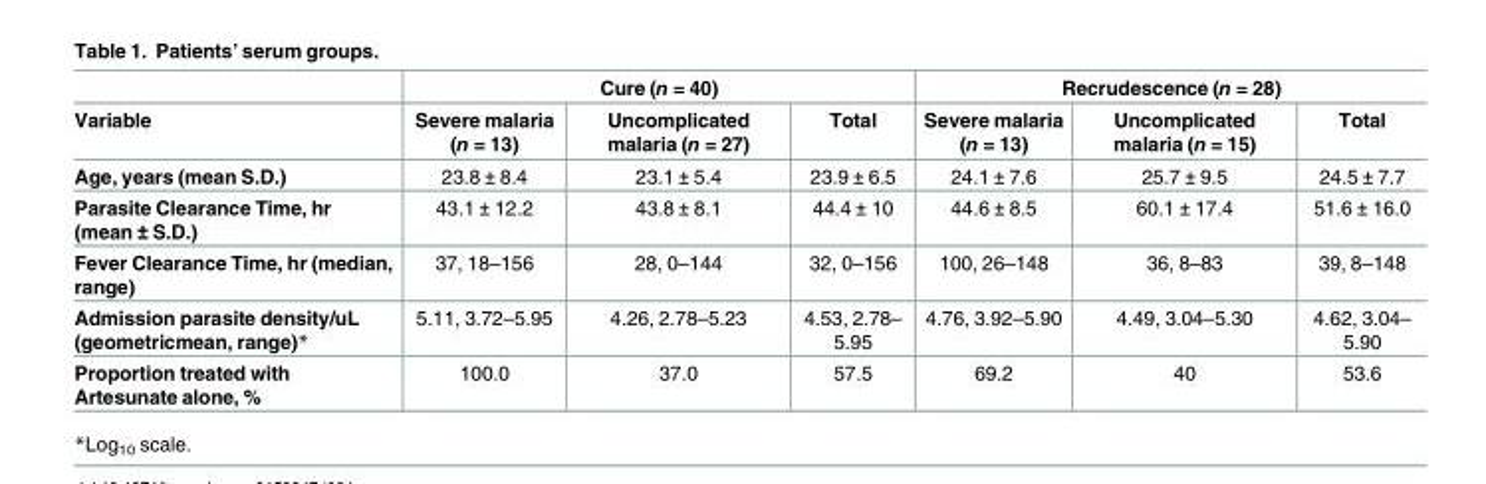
<table><thead><tr><td rowspan="2">Variable</td><td colspan="3">Cure (n = 40)</td><td colspan="3">Recrudescence (n = 28)</td></tr><tr><td>Severe malaria (n = 13)</td><td>Uncomplicated malaria (n = 27)</td><td>Total</td><td>Severe malaria (n = 13)</td><td>Uncomplicated malaria (n = 15)</td><td>Total</td></tr></thead><tbody><tr><td>Age, years (mean S.D.)</td><td>23.8 ± 8.4</td><td>23.1 ± 5.4</td><td>23.9 ± 6.5</td><td>24.1 ± 7.6</td><td>25.7 ± 9.5</td><td>24.5 ± 7.7</td></tr><tr><td>Parasite Clearance Time, hr (mean ± S.D.)</td><td>43.1 ± 12.2</td><td>43.8 ± 8.1</td><td>44.4 ± 10</td><td>44.6 ± 8.5</td><td>60.1 ± 17.4</td><td>51.6 ± 16.0</td></tr><tr><td>Fever Clearance Time, hr (median, range)</td><td>37, 18–156</td><td>28, 0–144</td><td>32, 0–156</td><td>100, 26–148</td><td>36, 8–83</td><td>39, 8–148</td></tr><tr><td>Admission parasite density/uL (geometricmean, range)*</td><td>5.11, 3.72–5.95</td><td>4.26, 2.78–5.23</td><td>4.53, 2.78– 5.95</td><td>4.76, 3.92–5.90</td><td>4.49, 3.04–5.30</td><td>4.62, 3.04– 5.90</td></tr><tr><td>Proportion treated with Artesunate alone, %</td><td>100.0</td><td>37.0</td><td>57.5</td><td>69.2</td><td>40</td><td>53.6</td></tr></tbody></table>